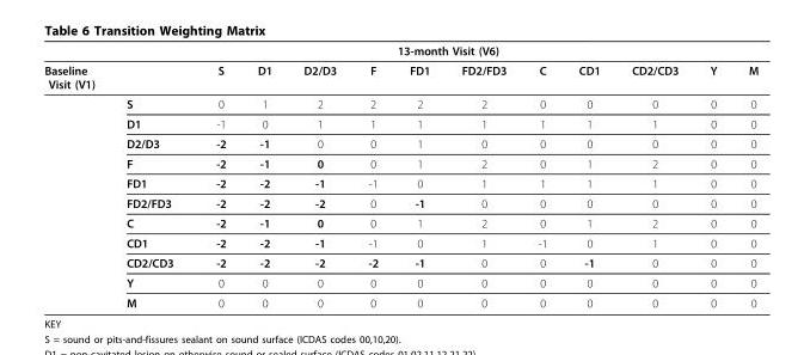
<table><thead><tr><td rowspan="2">Baseline Visit (V1)</td><td colspan="12">13-month Visit (V6)</td></tr><tr><td></td><td>S</td><td>D1</td><td>D2/D3</td><td>F</td><td>FD1</td><td>FD2/FD3</td><td>C</td><td>CD1</td><td>CD2/CD3</td><td>Y</td><td>M</td></tr></thead><tbody><tr><td></td><td>S</td><td>0</td><td>1</td><td>2</td><td>2</td><td>2</td><td>2</td><td>0</td><td>0</td><td>0</td><td>0</td><td>0</td></tr><tr><td></td><td>D1</td><td>-1</td><td>0</td><td>1</td><td>1</td><td>1</td><td>1</td><td>1</td><td>1</td><td>1</td><td>0</td><td>0</td></tr><tr><td></td><td>D2/D3</td><td>-2</td><td>-1</td><td>0</td><td>0</td><td>1</td><td>0</td><td>0</td><td>0</td><td>0</td><td>0</td><td>0</td></tr><tr><td></td><td>F</td><td>-2</td><td>-1</td><td>0</td><td>0</td><td>1</td><td>2</td><td>0</td><td>1</td><td>2</td><td>0</td><td>0</td></tr><tr><td></td><td>FD1</td><td>-2</td><td>-2</td><td>-1</td><td>-1</td><td>0</td><td>1</td><td>1</td><td>1</td><td>1</td><td>0</td><td>0</td></tr><tr><td></td><td>FD2/FD3</td><td>-2</td><td>-2</td><td>-2</td><td>0</td><td>-1</td><td>0</td><td>0</td><td>0</td><td>0</td><td>0</td><td>0</td></tr><tr><td></td><td>C</td><td>-2</td><td>-1</td><td>0</td><td>0</td><td>1</td><td>2</td><td>0</td><td>1</td><td>2</td><td>0</td><td>0</td></tr><tr><td></td><td>CD1</td><td>-2</td><td>-2</td><td>-1</td><td>-1</td><td>0</td><td>1</td><td>-1</td><td>0</td><td>1</td><td>0</td><td>0</td></tr><tr><td></td><td>CD2/CD3</td><td>-2</td><td>-2</td><td>-2</td><td>-2</td><td>-1</td><td>0</td><td>0</td><td>-1</td><td>0</td><td>0</td><td>0</td></tr><tr><td></td><td>Y</td><td>0</td><td>0</td><td>0</td><td>0</td><td>0</td><td>0</td><td>0</td><td>0</td><td>0</td><td>0</td><td>0</td></tr><tr><td></td><td>M</td><td>0</td><td>0</td><td>0</td><td>0</td><td>0</td><td>0</td><td>0</td><td>0</td><td>0</td><td>0</td><td>0</td></tr></tbody></table>